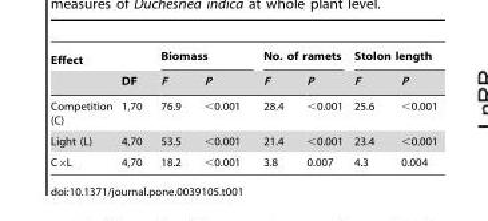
<table><thead><tr><td rowspan="2">Effect</td><td rowspan="2">DF</td><td colspan="2">Biomass</td><td colspan="2">No. of ramets</td><td colspan="2">Stolon length</td></tr><tr><td>F</td><td>P</td><td>F</td><td>P</td><td>F</td><td>P</td></tr></thead><tbody><tr><td>Competition (C)</td><td>1,70</td><td>76.9</td><td>&lt;0.001</td><td>28.4</td><td>&lt;0.001</td><td>25.6</td><td>&lt;0.001</td></tr><tr><td>Light (L)</td><td>4,70</td><td>53.5</td><td>&lt;0.001</td><td>21.4</td><td>&lt;0.001</td><td>23.4</td><td>&lt;0.001</td></tr><tr><td>C×L</td><td>4,70</td><td>18.2</td><td>&lt;0.001</td><td>3.8</td><td>0.007</td><td>4.3</td><td>0.004</td></tr></tbody></table>